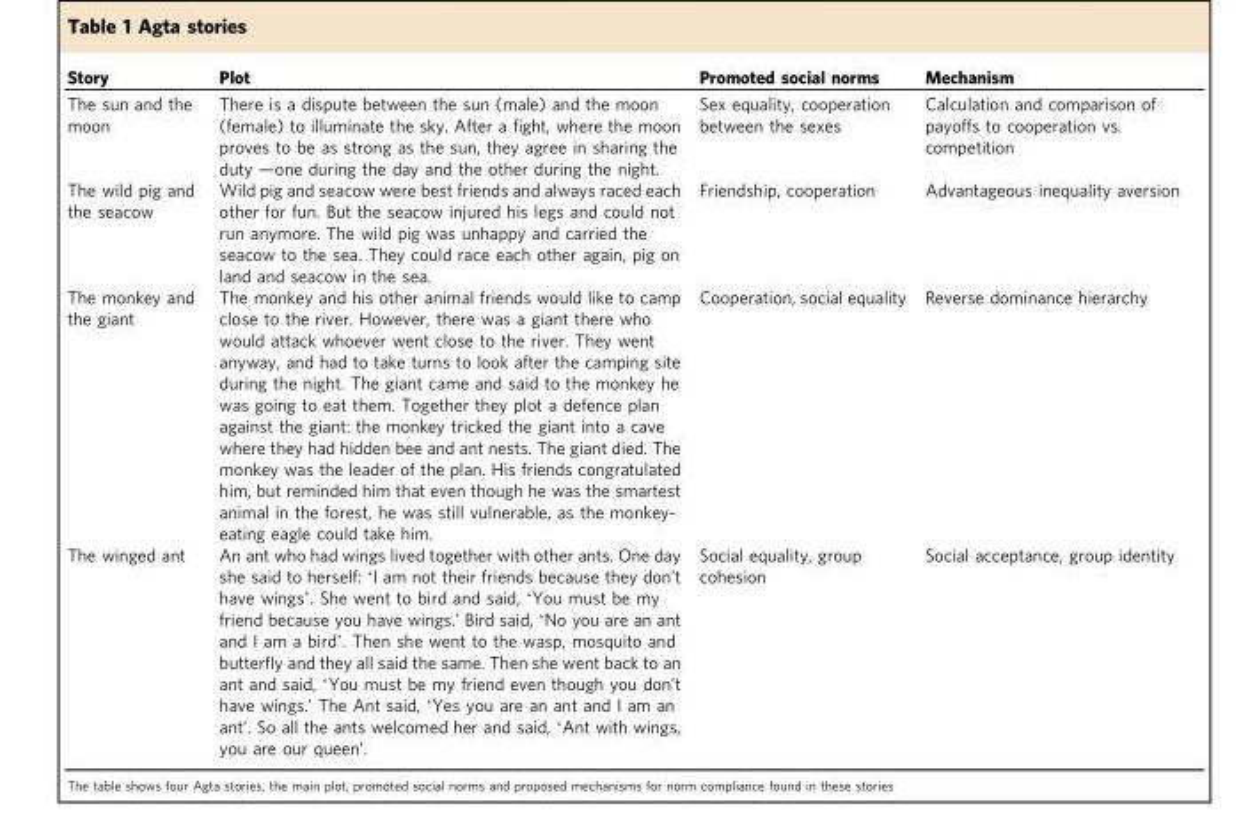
<table><thead><tr><td>Story</td><td>Plot</td><td>Promoted social norms</td><td>Mechanism</td></tr></thead><tbody><tr><td>The sun and the moon</td><td>There is a dispute between the sun (male) and the moon (female) to illuminate the sky. After a fight, where the moon proves to be as strong as the sun, they agree in sharing the duty —one during the day and the other during the night.</td><td>Sex equality, cooperation between the sexes</td><td>Calculation and comparison of payoffs to cooperation vs. competition</td></tr><tr><td>The wild pig and the seacow</td><td>Wild pig and seacow were best friends and always raced each other for fun. But the seacow injured his legs and could not run anymore. The wild pig was unhappy and carried the seacow to the sea. They could race each other again, pig on land and seacow in the sea.</td><td>Friendship, cooperation</td><td>Advantageous inequality aversion</td></tr><tr><td>The monkey and the giant</td><td>The monkey and his other animal friends would like to camp close to the river. However, there was a giant there who would attack whoever went close to the river. They went anyway, and had to take turns to look after the camping site during the night. The giant came and said to the monkey he was going to eat them. Together they plot a defence plan against the giant: the monkey tricked the giant into a cave where they had hidden bee and ant nests. The giant died. The monkey was the leader of the plan. His friends congratulated him, but reminded him that even though he was the smartest animal in the forest, he was still vulnerable, as the monkey- eating eagle could take him.</td><td>Cooperation, social equality</td><td>Reverse dominance hierarchy</td></tr><tr><td>The winged ant</td><td>An ant who had wings lived together with other ants. One day she said to herself: ʻI am not their friends because they don’t have wingsʼ. She went to bird and said, ʻYou must be my friend because you have wings.’ Bird said, ʻNo you are an ant and I am a birdʼ. Then she went to the wasp, mosquito and butterfly and they all said the same. Then she went back to an ant and said, ʻYou must be my friend even though you don’t have wings.’ The Ant said, ʻYes you are an ant and I am an ant’. So all the ants welcomed her and said, ʻAnt with wings, you are our queen’.</td><td>Social equality, group cohesion</td><td>Social acceptance, group identity</td></tr></tbody></table>